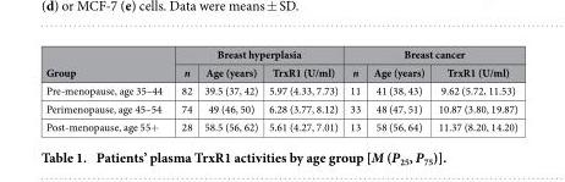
<table><thead><tr><td rowspan="2">Group</td><td colspan="3">Breast hyperplasia</td><td colspan="3">Breast cancer</td></tr><tr><td>n</td><td>Age (years)</td><td>TrxR1 (U/ml)</td><td>n</td><td>Age (years)</td><td>TrxR1 (U/ml)</td></tr></thead><tbody><tr><td>Pre-menopause, age 35–44</td><td>82</td><td>39.5 (37, 42)</td><td>5.97 (4.33, 7.73)</td><td>11</td><td>41 (38, 43)</td><td>9.62 (5.72, 11.53)</td></tr><tr><td>Perimenopause, age 45–54</td><td>74</td><td>49 (46, 50)</td><td>6.28 (3.77, 8.12)</td><td>33</td><td>48 (47, 51)</td><td>10.87 (3.80, 19.87)</td></tr><tr><td>Post-menopause, age 55+</td><td>28</td><td>58.5 (56, 62)</td><td>5.61 (4.27, 7.01)</td><td>13</td><td>58 (56, 64)</td><td>11.37 (8.20, 14.20)</td></tr></tbody></table>